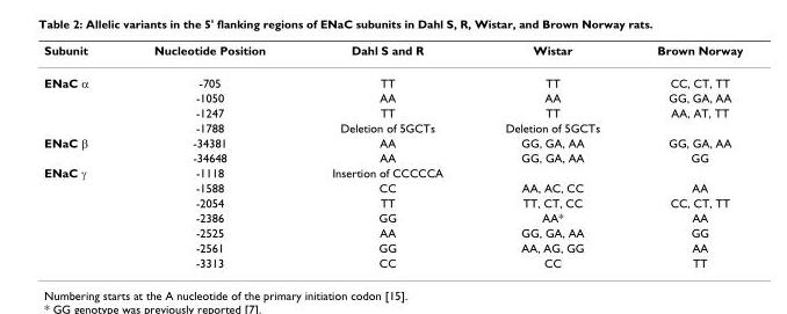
<table><thead><tr><td>Subunit</td><td>Nucleotide Position</td><td>Dahl S and R</td><td>Wistar</td><td>Brown Norway</td></tr></thead><tbody><tr><td rowspan="4">ENaC α</td><td>-705</td><td>TT</td><td>TT</td><td>CC, CT, TT</td></tr><tr><td>-1050</td><td>AA</td><td>AA</td><td>GG, GA, AA</td></tr><tr><td>-1247</td><td>TT</td><td>TT</td><td>AA, AT, TT</td></tr><tr><td>-1788</td><td>Deletion of 5GCTs</td><td>Deletion of 5GCTs</td><td></td></tr><tr><td rowspan="2">ENaC β</td><td>-34381</td><td>AA</td><td>GG, GA, AA</td><td>GG, GA, AA</td></tr><tr><td>-34648</td><td>AA</td><td>GG, GA, AA</td><td>GG</td></tr><tr><td rowspan="7">ENaC γ</td><td>-1118</td><td>Insertion of CCCCCA</td><td></td><td></td></tr><tr><td>-1588</td><td>CC</td><td>AA, AC, CC</td><td>AA</td></tr><tr><td>-2054</td><td>TT</td><td>TT, CT, CC</td><td>CC, CT, TT</td></tr><tr><td>-2386</td><td>GG</td><td>AA*</td><td>AA</td></tr><tr><td>-2525</td><td>AA</td><td>GG, GA, AA</td><td>GG</td></tr><tr><td>-2561</td><td>GG</td><td>AA, AG, GG</td><td>AA</td></tr><tr><td>-3313</td><td>CC</td><td>CC</td><td>TT</td></tr></tbody></table>